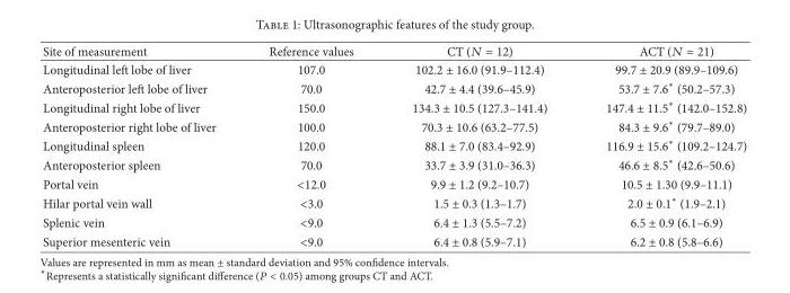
<table><thead><tr><td>Site of measurement</td><td>Reference values</td><td>CT (𝑁𝑁 𝑁 𝑁𝑁)</td><td>ACT (𝑁𝑁 𝑁 𝑁𝑁)</td></tr></thead><tbody><tr><td>Longitudinal le lobe of liver</td><td>107.0</td><td>102.2 ± 16.0 (91.9–112.4)</td><td>99.7 ± 20.9 (89.9–109.6)</td></tr><tr><td>Anteroposterior le lobe of liver</td><td>70.0</td><td>42.7 ± 4.4 (39.6–45.9)</td><td>53.7 ± 7.6∗ (50.2–57.3)</td></tr><tr><td>Longitudinal right lobe of liver</td><td>150.0</td><td>134.3 ± 10.5 (127.3–141.4)</td><td>147.4 ± 11.5∗ (142.0–152.8)</td></tr><tr><td>Anteroposterior right lobe of liver</td><td>100.0</td><td>70.3 ± 10.6 (63.2–77.5)</td><td>84.3 ± 9.6∗ (79.7–89.0)</td></tr><tr><td>Longitudinal spleen</td><td>120.0</td><td>88.1 ± 7.0 (83.4–92.9)</td><td>116.9 ± 15.6∗ (109.2–124.7)</td></tr><tr><td>Anteroposterior spleen</td><td>70.0</td><td>33.7 ± 3.9 (31.0–36.3)</td><td>46.6 ± 8.5∗ (42.6–50.6)</td></tr><tr><td>Portal vein</td><td>&lt;12.0</td><td>9.9 ± 1.2 (9.2–10.7)</td><td>10.5 ± 1.30 (9.9–11.1)</td></tr><tr><td>Hilar portal vein wall</td><td>&lt;3.0</td><td>1.5 ± 0.3 (1.3–1.7)</td><td>2.0 ± 0.1∗ (1.9–2.1)</td></tr><tr><td>Splenic vein</td><td>&lt;9.0</td><td>6.4 ± 1.3 (5.5–7.2)</td><td>6.5 ± 0.9 (6.1–6.9)</td></tr><tr><td>Superior mesenteric vein</td><td>&lt;9.0</td><td>6.4 ± 0.8 (5.9–7.1)</td><td>6.2 ± 0.8 (5.8–6.6)</td></tr></tbody></table>